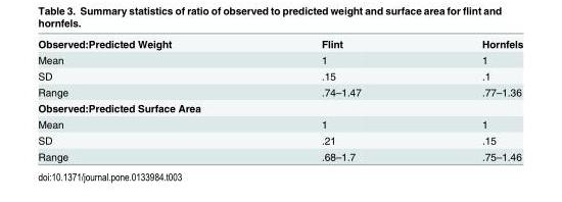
<table><tbody><tr><td>Observed:Predicted Weight</td><td>Flint</td><td>Hornfels</td></tr><tr><td>Mean</td><td>1</td><td>1</td></tr><tr><td>SD</td><td>.15</td><td>.1</td></tr><tr><td>Range</td><td>.74–1.47</td><td>.77–1.36</td></tr><tr><td colspan="3">Observed:Predicted Surface Area</td></tr><tr><td>Mean</td><td>1</td><td>1</td></tr><tr><td>SD</td><td>.21</td><td>.15</td></tr><tr><td>Range</td><td>.68–1.7</td><td>.75–1.46</td></tr></tbody></table>